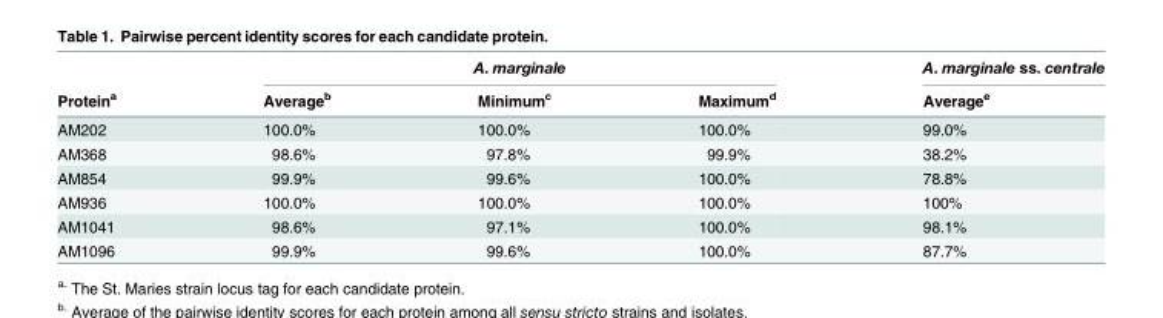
<table><thead><tr><td rowspan="2">Protein<sup>a</sup></td><td colspan="3">A. marginale</td><td rowspan="2">A. marginale ss. centrale Average<sup>e</sup></td></tr><tr><td>Average<sup>b</sup></td><td>Minimum<sup>c</sup></td><td>Maximum<sup>d</sup></td></tr></thead><tbody><tr><td>AM202</td><td>100.0%</td><td>100.0%</td><td>100.0%</td><td>99.0%</td></tr><tr><td>AM368</td><td>98.6%</td><td>97.8%</td><td>99.9%</td><td>38.2%</td></tr><tr><td>AM854</td><td>99.9%</td><td>99.6%</td><td>100.0%</td><td>78.8%</td></tr><tr><td>AM936</td><td>100.0%</td><td>100.0%</td><td>100.0%</td><td>100%</td></tr><tr><td>AM1041</td><td>98.6%</td><td>97.1%</td><td>100.0%</td><td>98.1%</td></tr><tr><td>AM1096</td><td>99.9%</td><td>99.6%</td><td>100.0%</td><td>87.7%</td></tr></tbody></table>